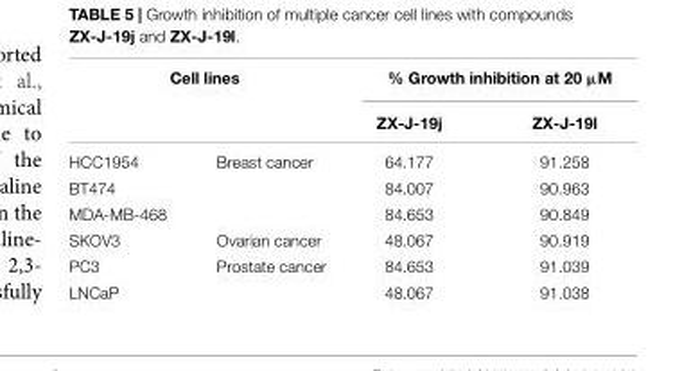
<table><thead><tr><td colspan="2">Cell lines</td><td colspan="2">% Growth inhibition at 20 µM</td></tr><tr><td></td><td></td><td>ZX-J-19j</td><td>ZX-J-19l</td></tr></thead><tbody><tr><td>HCC1954</td><td>Breast cancer</td><td>64.177</td><td>91.258</td></tr><tr><td>BT474</td><td></td><td>84.007</td><td>90.963</td></tr><tr><td>MDA-MB-468</td><td></td><td>84.653</td><td>90.849</td></tr><tr><td>SKOV3</td><td>Ovarian cancer</td><td>48.067</td><td>90.919</td></tr><tr><td>PC3</td><td>Prostate cancer</td><td>84.653</td><td>91.039</td></tr><tr><td>LNCaP</td><td></td><td>48.067</td><td>91.038</td></tr></tbody></table>